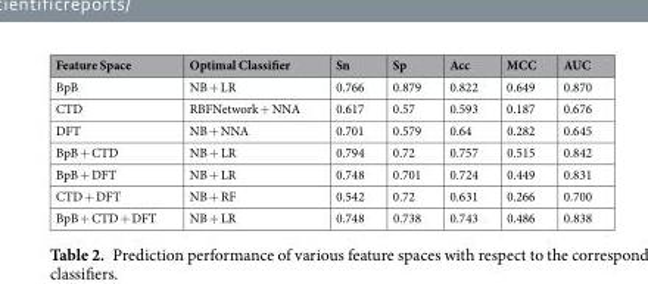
<table><thead><tr><td>Feature Space</td><td>Optimal Classifier</td><td>Sn</td><td>Sp</td><td>Acc</td><td>MCC</td><td>AUC</td></tr></thead><tbody><tr><td>BpB</td><td>NB + LR</td><td>0.766</td><td>0.879</td><td>0.822</td><td>0.649</td><td>0.870</td></tr><tr><td>CTD</td><td>RBFNetwork + NNA</td><td>0.617</td><td>0.57</td><td>0.593</td><td>0.187</td><td>0.676</td></tr><tr><td>DFT</td><td>NB + NNA</td><td>0.701</td><td>0.579</td><td>0.64</td><td>0.282</td><td>0.645</td></tr><tr><td>BpB + CTD</td><td>NB + LR</td><td>0.794</td><td>0.72</td><td>0.757</td><td>0.515</td><td>0.842</td></tr><tr><td>BpB + DFT</td><td>NB + LR</td><td>0.748</td><td>0.701</td><td>0.724</td><td>0.449</td><td>0.831</td></tr><tr><td>CTD + DFT</td><td>NB + RF</td><td>0.542</td><td>0.72</td><td>0.631</td><td>0.266</td><td>0.700</td></tr><tr><td>BpB + CTD + DFT</td><td>NB + LR</td><td>0.748</td><td>0.738</td><td>0.743</td><td>0.486</td><td>0.838</td></tr></tbody></table>